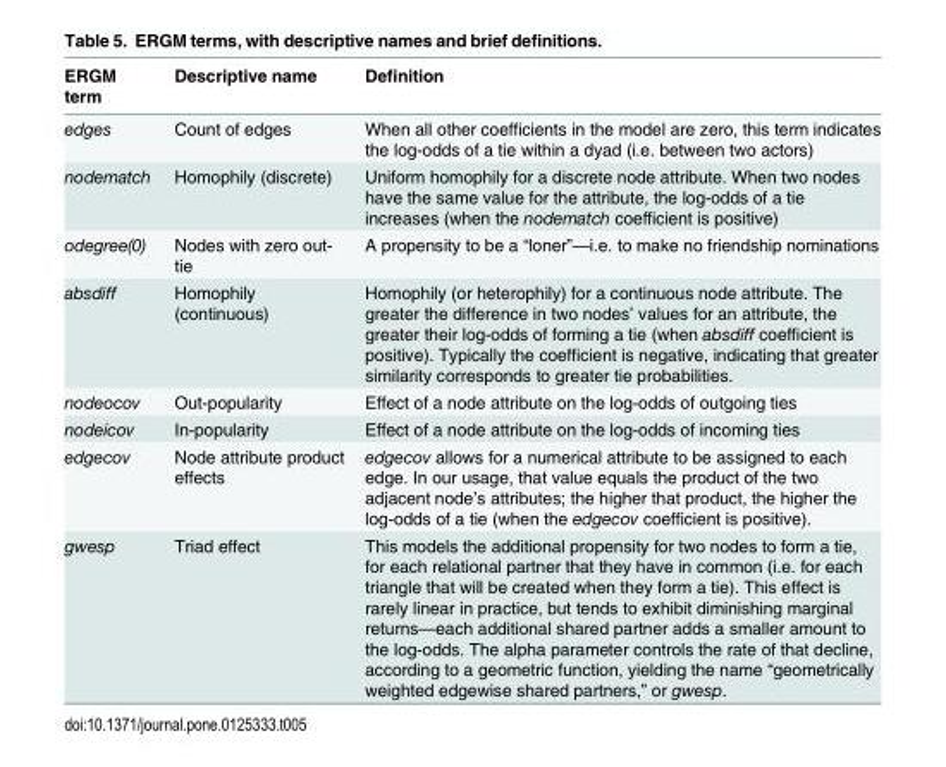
<table><thead><tr><td>ERGM term</td><td>Descriptive name</td><td>Definition</td></tr></thead><tbody><tr><td>edges</td><td>Count of edges</td><td>When all other coefficients in the model are zero, this term indicates the log-odds of a tie within a dyad (i.e. between two actors)</td></tr><tr><td>nodematch</td><td>Homophily (discrete)</td><td>Uniform homophily for a discrete node attribute. When two nodes have the same value for the attribute, the log-odds of a tie increases (when the nodematch coefficient is positive)</td></tr><tr><td>odegree(0)</td><td>Nodes with zero out- tie</td><td>A propensity to be a “loner”—i.e. to make no friendship nominations</td></tr><tr><td>absdiff</td><td>Homophily (continuous)</td><td>Homophily (or heterophily) for a continuous node attribute. The greater the difference in two nodes’ values for an attribute, the greater their log-odds of forming a tie (when absdiff coefficient is positive). Typically the coefficient is negative, indicating that greater similarity corresponds to greater tie probabilities.</td></tr><tr><td>nodeocov</td><td>Out-popularity</td><td>Effect of a node attribute on the log-odds of outgoing ties</td></tr><tr><td>nodeicov</td><td>In-popularity</td><td>Effect of a node attribute on the log-odds of incoming ties</td></tr><tr><td>edgecov</td><td>Node attribute product effects</td><td>edgecov allows for a numerical attribute to be assigned to each edge. In our usage, that value equals the product of the two adjacent node’s attributes; the higher that product, the higher the log-odds of a tie (when the edgecov coefficient is positive).</td></tr><tr><td>gwesp</td><td>Triad effect</td><td>This models the additional propensity for two nodes to form a tie, for each relational partner that they have in common (i.e. for each triangle that will be created when they form a tie). This effect is rarely linear in practice, but tends to exhibit diminishing marginal returns—each additional shared partner adds a smaller amount to the log-odds. The alpha parameter controls the rate of that decline, according to a geometric function, yielding the name “geometrically weighted edgewise shared partners,” or gwesp.</td></tr></tbody></table>